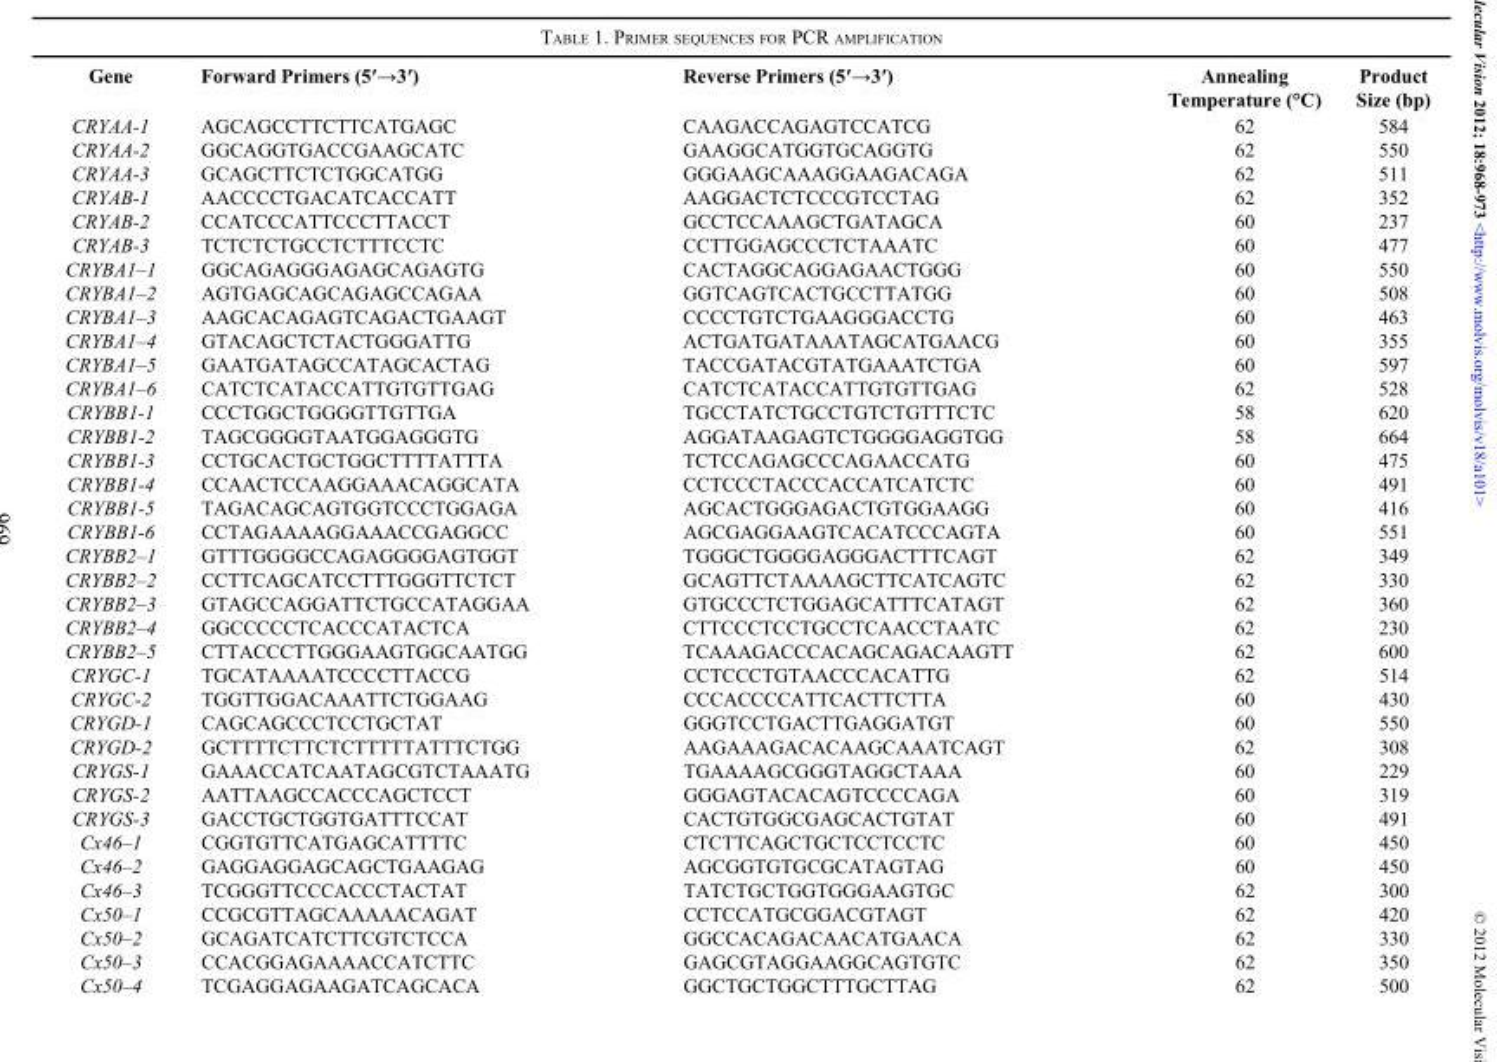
<table><thead><tr><td>Gene</td><td>Forward Primers (5′→3′)</td><td>Reverse Primers (5′→3′)</td><td>Annealing Temperature (°C)</td><td>Product Size (bp)</td></tr></thead><tbody><tr><td>CRYAA-1</td><td>AGCAGCCTTCTTCATGAGC</td><td>CAAGACCAGAGTCCATCG</td><td>62</td><td>584</td></tr><tr><td>CRYAA-2</td><td>GGCAGGTGACCGAAGCATC</td><td>GAAGGCATGGTGCAGGTG</td><td>62</td><td>550</td></tr><tr><td>CRYAA-3</td><td>GCAGCTTCTCTGGCATGG</td><td>GGGAAGCAAAGGAAGACAGA</td><td>62</td><td>511</td></tr><tr><td>CRYAB-1</td><td>AACCCCTGACATCACCATT</td><td>AAGGACTCTCCCGTCCTAG</td><td>62</td><td>352</td></tr><tr><td>CRYAB-2</td><td>CCATCCCATTCCCTTACCT</td><td>GCCTCCAAAGCTGATAGCA</td><td>60</td><td>237</td></tr><tr><td>CRYAB-3</td><td>TCTCTCTGCCTCTTTCCTC</td><td>CCTTGGAGCCCTCTAAATC</td><td>60</td><td>477</td></tr><tr><td>CRYBA1–1</td><td>GGCAGAGGGAGAGCAGAGTG</td><td>CACTAGGCAGGAGAACTGGG</td><td>60</td><td>550</td></tr><tr><td>CRYBA1–2</td><td>AGTGAGCAGCAGAGCCAGAA</td><td>GGTCAGTCACTGCCTTATGG</td><td>60</td><td>508</td></tr><tr><td>CRYBA1–3</td><td>AAGCACAGAGTCAGACTGAAGT</td><td>CCCCTGTCTGAAGGGACCTG</td><td>60</td><td>463</td></tr><tr><td>CRYBA1–4</td><td>GTACAGCTCTACTGGGATTG</td><td>ACTGATGATAAATAGCATGAACG</td><td>60</td><td>355</td></tr><tr><td>CRYBA1–5</td><td>GAATGATAGCCATAGCACTAG</td><td>TACCGATACGTATGAAATCTGA</td><td>60</td><td>597</td></tr><tr><td>CRYBA1–6</td><td>CATCTCATACCATTGTGTTGAG</td><td>CATCTCATACCATTGTGTTGAG</td><td>62</td><td>528</td></tr><tr><td>CRYBB1-1</td><td>CCCTGGCTGGGGTTGTTGA</td><td>TGCCTATCTGCCTGTCTGTTTCTC</td><td>58</td><td>620</td></tr><tr><td>CRYBB1-2</td><td>TAGCGGGGTAATGGAGGGTG</td><td>AGGATAAGAGTCTGGGGAGGTGG</td><td>58</td><td>664</td></tr><tr><td>CRYBB1-3</td><td>CCTGCACTGCTGGCTTTTATTTA</td><td>TCTCCAGAGCCCAGAACCATG</td><td>60</td><td>475</td></tr><tr><td>CRYBB1-4</td><td>CCAACTCCAAGGAAACAGGCATA</td><td>CCTCCCTACCCACCATCATCTC</td><td>60</td><td>491</td></tr><tr><td>CRYBB1-5</td><td>TAGACAGCAGTGGTCCCTGGAGA</td><td>AGCACTGGGAGACTGTGGAAGG</td><td>60</td><td>416</td></tr><tr><td>CRYBB1-6</td><td>CCTAGAAAAGGAAACCGAGGCC</td><td>AGCGAGGAAGTCACATCCCAGTA</td><td>60</td><td>551</td></tr><tr><td>CRYBB2–1</td><td>GTTTGGGGCCAGAGGGGAGTGGT</td><td>TGGGCTGGGGAGGGACTTTCAGT</td><td>62</td><td>349</td></tr><tr><td>CRYBB2–2</td><td>CCTTCAGCATCCTTTGGGTTCTCT</td><td>GCAGTTCTAAAAGCTTCATCAGTC</td><td>62</td><td>330</td></tr><tr><td>CRYBB2–3</td><td>GTAGCCAGGATTCTGCCATAGGAA</td><td>GTGCCCTCTGGAGCATTTCATAGT</td><td>62</td><td>360</td></tr><tr><td>CRYBB2–4</td><td>GGCCCCCTCACCCATACTCA</td><td>CTTCCCTCCTGCCTCAACCTAATC</td><td>62</td><td>230</td></tr><tr><td>CRYBB2–5</td><td>CTTACCCTTGGGAAGTGGCAATGG</td><td>TCAAAGACCCACAGCAGACAAGTT</td><td>62</td><td>600</td></tr><tr><td>CRYGC-1</td><td>TGCATAAAATCCCCTTACCG</td><td>CCTCCCTGTAACCCACATTG</td><td>62</td><td>514</td></tr><tr><td>CRYGC-2</td><td>TGGTTGGACAAATTCTGGAAG</td><td>CCCACCCCATTCACTTCTTA</td><td>60</td><td>430</td></tr><tr><td>CRYGD-1</td><td>CAGCAGCCCTCCTGCTAT</td><td>GGGTCCTGACTTGAGGATGT</td><td>60</td><td>550</td></tr><tr><td>CRYGD-2</td><td>GCTTTTCTTCTCTTTTTATTTCTGG</td><td>AAGAAAGACACAAGCAAATCAGT</td><td>62</td><td>308</td></tr><tr><td>CRYGS-1</td><td>GAAACCATCAATAGCGTCTAAATG</td><td>TGAAAAGCGGGTAGGCTAAA</td><td>60</td><td>229</td></tr><tr><td>CRYGS-2</td><td>AATTAAGCCACCCAGCTCCT</td><td>GGGAGTACACAGTCCCCAGA</td><td>60</td><td>319</td></tr><tr><td>CRYGS-3</td><td>GACCTGCTGGTGATTTCCAT</td><td>CACTGTGGCGAGCACTGTAT</td><td>60</td><td>491</td></tr><tr><td>Cx46–1</td><td>CGGTGTTCATGAGCATTTTC</td><td>CTCTTCAGCTGCTCCTCCTC</td><td>60</td><td>450</td></tr><tr><td>Cx46–2</td><td>GAGGAGGAGCAGCTGAAGAG</td><td>AGCGGTGTGCGCATAGTAG</td><td>60</td><td>450</td></tr><tr><td>Cx46–3</td><td>TCGGGTTCCCACCCTACTAT</td><td>TATCTGCTGGTGGGAAGTGC</td><td>62</td><td>300</td></tr><tr><td>Cx50–1</td><td>CCGCGTTAGCAAAAACAGAT</td><td>CCTCCATGCGGACGTAGT</td><td>62</td><td>420</td></tr><tr><td>Cx50–2</td><td>GCAGATCATCTTCGTCTCCA</td><td>GGCCACAGACAACATGAACA</td><td>62</td><td>330</td></tr><tr><td>Cx50–3</td><td>CCACGGAGAAAACCATCTTC</td><td>GAGCGTAGGAAGGCAGTGTC</td><td>62</td><td>350</td></tr><tr><td>Cx50–4</td><td>TCGAGGAGAAGATCAGCACA</td><td>GGCTGCTGGCTTTGCTTAG</td><td>62</td><td>500</td></tr></tbody></table>